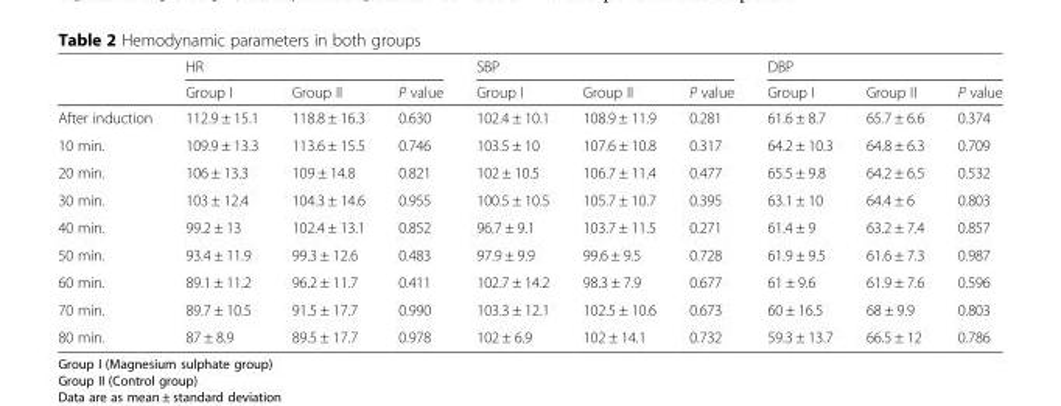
<table><thead><tr><td rowspan="2"></td><td colspan="3">HR</td><td colspan="3">SBP</td><td colspan="3">DBP</td></tr><tr><td>Group I</td><td>Group II</td><td>P value</td><td>Group I</td><td>Group II</td><td>P value</td><td>Group I</td><td>Group II</td><td>P value</td></tr></thead><tbody><tr><td>After induction</td><td>112.9 ± 15.1</td><td>118.8 ± 16.3</td><td>0.630</td><td>102.4 ± 10.1</td><td>108.9 ± 11.9</td><td>0.281</td><td>61.6 ± 8.7</td><td>65.7 ± 6.6</td><td>0.374</td></tr><tr><td>10 min.</td><td>109.9 ± 13.3</td><td>113.6 ± 15.5</td><td>0.746</td><td>103.5 ± 10</td><td>107.6 ± 10.8</td><td>0.317</td><td>64.2 ± 10.3</td><td>64.8 ± 6.3</td><td>0.709</td></tr><tr><td>20 min.</td><td>106 ± 13.3</td><td>109 ± 14.8</td><td>0.821</td><td>102 ± 10.5</td><td>106.7 ± 11.4</td><td>0.477</td><td>65.5 ± 9.8</td><td>64.2 ± 6.5</td><td>0.532</td></tr><tr><td>30 min.</td><td>103 ± 12.4</td><td>104.3 ± 14.6</td><td>0.955</td><td>100.5 ± 10.5</td><td>105.7 ± 10.7</td><td>0.395</td><td>63.1 ± 10</td><td>64.4 ± 6</td><td>0.803</td></tr><tr><td>40 min.</td><td>99.2 ± 13</td><td>102.4 ± 13.1</td><td>0.852</td><td>96.7 ± 9.1</td><td>103.7 ± 11.5</td><td>0.271</td><td>61.4 ± 9</td><td>63.2 ± 7.4</td><td>0.857</td></tr><tr><td>50 min.</td><td>93.4 ± 11.9</td><td>99.3 ± 12.6</td><td>0.483</td><td>97.9 ± 9.9</td><td>99.6 ± 9.5</td><td>0.728</td><td>61.9 ± 9.5</td><td>61.6 ± 7.3</td><td>0.987</td></tr><tr><td>60 min.</td><td>89.1 ± 11.2</td><td>96.2 ± 11.7</td><td>0.411</td><td>102.7 ± 14.2</td><td>98.3 ± 7.9</td><td>0.677</td><td>61 ± 9.6</td><td>61.9 ± 7.6</td><td>0.596</td></tr><tr><td>70 min.</td><td>89.7 ± 10.5</td><td>91.5 ± 17.7</td><td>0.990</td><td>103.3 ± 12.1</td><td>102.5 ± 10.6</td><td>0.673</td><td>60 ± 16.5</td><td>68 ± 9.9</td><td>0.803</td></tr><tr><td>80 min.</td><td>87 ± 8.9</td><td>89.5 ± 17.7</td><td>0.978</td><td>102 ± 6.9</td><td>102 ± 14.1</td><td>0.732</td><td>59.3 ± 13.7</td><td>66.5 ± 12</td><td>0.786</td></tr></tbody></table>